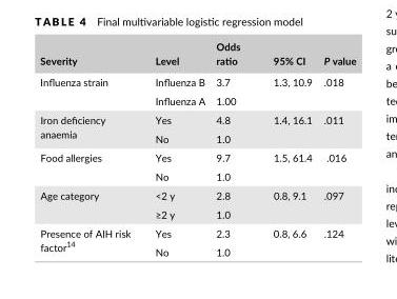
<table><thead><tr><td>Severity</td><td>Level</td><td>Odds ratio</td><td>95% CI</td><td>P value</td></tr></thead><tbody><tr><td rowspan="2">Influenza strain</td><td>Influenza B</td><td>3.7</td><td>1.3, 10.9</td><td>.018</td></tr><tr><td>Influenza A</td><td>1.00</td><td></td><td></td></tr><tr><td rowspan="2">Iron deficiency anaemia</td><td>Yes</td><td>4.8</td><td>1.4, 16.1</td><td>.011</td></tr><tr><td>No</td><td>1.0</td><td></td><td></td></tr><tr><td rowspan="2">Food allergies</td><td>Yes</td><td>9.7</td><td>1.5, 61.4</td><td>.016</td></tr><tr><td>No</td><td>1.0</td><td></td><td></td></tr><tr><td rowspan="2">Age category</td><td>&lt;2 y</td><td>2.8</td><td>0.8, 9.1</td><td>.097</td></tr><tr><td>≥2 y</td><td>1.0</td><td></td><td></td></tr><tr><td rowspan="2">Presence of AIH risk factor<sup>14</sup></td><td>Yes</td><td>2.3</td><td>0.8, 6.6</td><td>.124</td></tr><tr><td>No</td><td>1.0</td><td></td><td></td></tr></tbody></table>